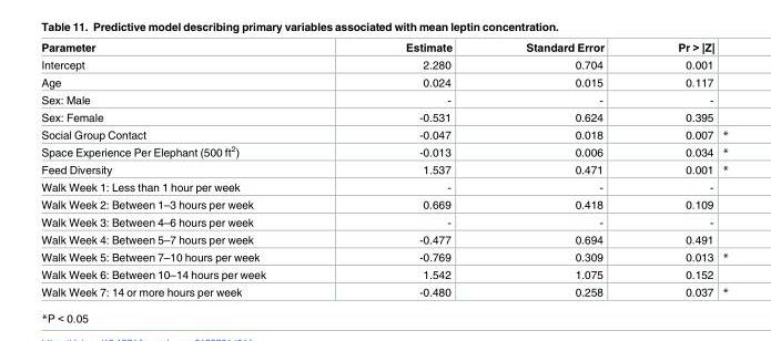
<table><thead><tr><td>Parameter</td><td>Estimate</td><td>Standard Error</td><td>Pr &gt; |Z|</td><td></td></tr></thead><tbody><tr><td>Intercept</td><td>2.280</td><td>0.704</td><td>0.001</td><td></td></tr><tr><td>Age</td><td>0.024</td><td>0.015</td><td>0.117</td><td></td></tr><tr><td>Sex: Male</td><td>-</td><td>-</td><td>-</td><td></td></tr><tr><td>Sex: Female</td><td>-0.531</td><td>0.624</td><td>0.395</td><td></td></tr><tr><td>Social Group Contact</td><td>-0.047</td><td>0.018</td><td>0.007</td><td>*</td></tr><tr><td>Space Experience Per Elephant (500 ft<sup>2</sup>)</td><td>-0.013</td><td>0.006</td><td>0.034</td><td>*</td></tr><tr><td>Feed Diversity</td><td>1.537</td><td>0.471</td><td>0.001</td><td>*</td></tr><tr><td>Walk Week 1: Less than 1 hour per week</td><td>-</td><td>-</td><td>-</td><td></td></tr><tr><td>Walk Week 2: Between 1–3 hours per week</td><td>0.669</td><td>0.418</td><td>0.109</td><td></td></tr><tr><td>Walk Week 3: Between 4–6 hours per week</td><td>-</td><td>-</td><td>-</td><td></td></tr><tr><td>Walk Week 4: Between 5–7 hours per week</td><td>-0.477</td><td>0.694</td><td>0.491</td><td></td></tr><tr><td>Walk Week 5: Between 7–10 hours per week</td><td>-0.769</td><td>0.309</td><td>0.013</td><td>*</td></tr><tr><td>Walk Week 6: Between 10–14 hours per week</td><td>1.542</td><td>1.075</td><td>0.152</td><td></td></tr><tr><td>Walk Week 7: 14 or more hours per week</td><td>-0.480</td><td>0.258</td><td>0.037</td><td>*</td></tr></tbody></table>